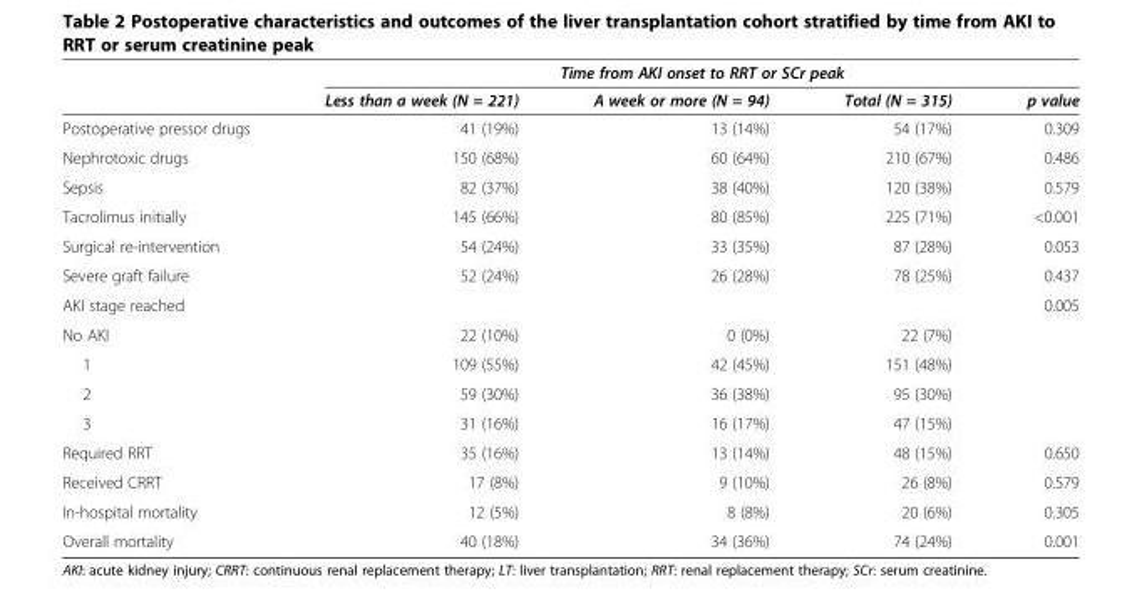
<table><thead><tr><td rowspan="2"></td><td colspan="4">Time from AKI onset to RRT or SCr peak</td></tr><tr><td>Less than a week (N = 221)</td><td>A week or more (N = 94)</td><td>Total (N = 315)</td><td>p value</td></tr></thead><tbody><tr><td>Postoperative pressor drugs</td><td>41 (19%)</td><td>13 (14%)</td><td>54 (17%)</td><td>0.309</td></tr><tr><td>Nephrotoxic drugs</td><td>150 (68%)</td><td>60 (64%)</td><td>210 (67%)</td><td>0.486</td></tr><tr><td>Sepsis</td><td>82 (37%)</td><td>38 (40%)</td><td>120 (38%)</td><td>0.579</td></tr><tr><td>Tacrolimus initially</td><td>145 (66%)</td><td>80 (85%)</td><td>225 (71%)</td><td>&lt;0.001</td></tr><tr><td>Surgical re-intervention</td><td>54 (24%)</td><td>33 (35%)</td><td>87 (28%)</td><td>0.053</td></tr><tr><td>Severe graft failure</td><td>52 (24%)</td><td>26 (28%)</td><td>78 (25%)</td><td>0.437</td></tr><tr><td>AKI stage reached</td><td></td><td></td><td></td><td>0.005</td></tr><tr><td>No AKI</td><td>22 (10%)</td><td>0 (0%)</td><td>22 (7%)</td><td></td></tr><tr><td>1</td><td>109 (55%)</td><td>42 (45%)</td><td>151 (48%)</td><td></td></tr><tr><td>2</td><td>59 (30%)</td><td>36 (38%)</td><td>95 (30%)</td><td></td></tr><tr><td>3</td><td>31 (16%)</td><td>16 (17%)</td><td>47 (15%)</td><td></td></tr><tr><td>Required RRT</td><td>35 (16%)</td><td>13 (14%)</td><td>48 (15%)</td><td>0.650</td></tr><tr><td>Received CRRT</td><td>17 (8%)</td><td>9 (10%)</td><td>26 (8%)</td><td>0.579</td></tr><tr><td>In-hospital mortality</td><td>12 (5%)</td><td>8 (8%)</td><td>20 (6%)</td><td>0.305</td></tr><tr><td>Overall mortality</td><td>40 (18%)</td><td>34 (36%)</td><td>74 (24%)</td><td>0.001</td></tr></tbody></table>